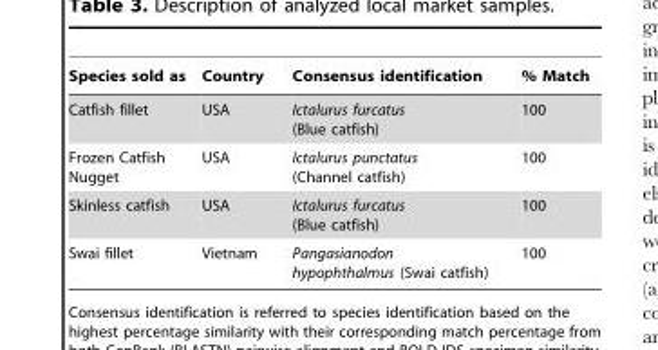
<table><thead><tr><td>Species sold as</td><td>Country</td><td>Consensus identification</td><td>% Match</td></tr></thead><tbody><tr><td>Catfish fillet</td><td>USA</td><td>Ictalurus furcatus (Blue catfish)</td><td>100</td></tr><tr><td>Frozen Catfish Nugget</td><td>USA</td><td>Ictalurus punctatus (Channel catfish)</td><td>100</td></tr><tr><td>Skinless catfish</td><td>USA</td><td>Ictalurus furcatus (Blue catfish)</td><td>100</td></tr><tr><td>Swai fillet</td><td>Vietnam</td><td>Pangasianodon hypophthalmus (Swai catfish)</td><td>100</td></tr></tbody></table>